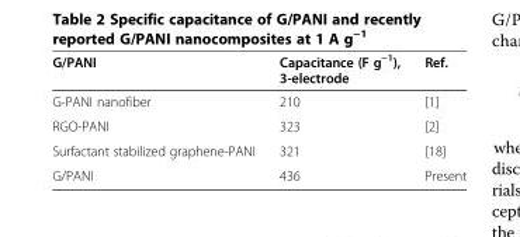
<table><thead><tr><td>G/PANI</td><td>Capacitance (F g<sup>−1</sup>), 3-electrode</td><td>Ref.</td></tr></thead><tbody><tr><td>G-PANI nanofiber</td><td>210</td><td>[1]</td></tr><tr><td>RGO-PANI</td><td>323</td><td>[2]</td></tr><tr><td>Surfactant stabilized graphene-PANI</td><td>321</td><td>[18]</td></tr><tr><td>G/PANI</td><td>436</td><td>Present</td></tr></tbody></table>